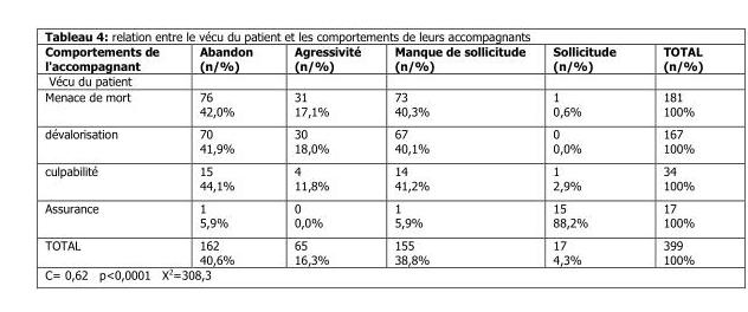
<table><thead><tr><td>Comportements de l&#x27;accompagnant</td><td>Abandon (n/%)</td><td>Agressivité (n/%)</td><td>Manque de sollicitude (n/%)</td><td>Sollicitude (n/%)</td><td>TOTAL (n/%)</td></tr></thead><tbody><tr><td colspan="6">Vécu du patient</td></tr><tr><td>Menace de mort</td><td>76 42,0%</td><td>31 17,1%</td><td>73 40,3%</td><td>1 0,6%</td><td>181 100%</td></tr><tr><td>dévalorisation</td><td>70 41,9%</td><td>30 18,0%</td><td>67 40,1%</td><td>0 0,0%</td><td>167 100%</td></tr><tr><td>culpabilité</td><td>15 44,1%</td><td>4 11,8%</td><td>14 41,2%</td><td>1 2,9%</td><td>34 100%</td></tr><tr><td>Assurance</td><td>1 5,9%</td><td>0 0,0%</td><td>1 5,9%</td><td>15 88,2%</td><td>17 100%</td></tr><tr><td>TOTAL</td><td>162 40,6%</td><td>65 16,3%</td><td>155 38,8%</td><td>17 4,3%</td><td>399 100%</td></tr></tbody></table>